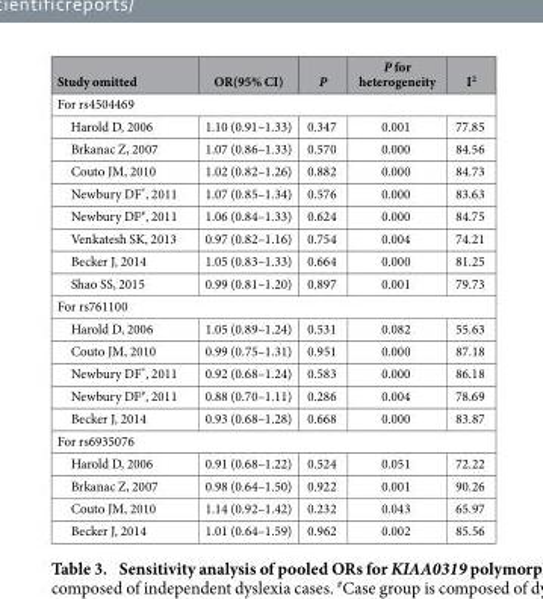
<table><thead><tr><td>Study omitted</td><td>OR(95% CI)</td><td>P</td><td>P for heterogeneity</td><td>I<sup>2</sup></td></tr></thead><tbody><tr><td colspan="5">For rs4504469</td></tr><tr><td>Harold D, 2006</td><td>1.10 (0.91–1.33)</td><td>0.347</td><td>0.001</td><td>77.85</td></tr><tr><td>Brkanac Z, 2007</td><td>1.07 (0.86–1.33)</td><td>0.570</td><td>0.000</td><td>84.56</td></tr><tr><td>Couto JM, 2010</td><td>1.02 (0.82–1.26)</td><td>0.882</td><td>0.000</td><td>84.73</td></tr><tr><td>Newbury DF*, 2011</td><td>1.07 (0.85–1.34)</td><td>0.576</td><td>0.000</td><td>83.63</td></tr><tr><td>Newbury DF<sup>#</sup>, 2011</td><td>1.06 (0.84–1.33)</td><td>0.624</td><td>0.000</td><td>84.75</td></tr><tr><td>Venkatesh SK, 2013</td><td>0.97 (0.82–1.16)</td><td>0.754</td><td>0.004</td><td>74.21</td></tr><tr><td>Becker J, 2014</td><td>1.05 (0.83–1.33)</td><td>0.664</td><td>0.000</td><td>81.25</td></tr><tr><td>Shao SS, 2015</td><td>0.99 (0.81–1.20)</td><td>0.897</td><td>0.001</td><td>79.73</td></tr><tr><td colspan="5">For rs761100</td></tr><tr><td>Harold D, 2006</td><td>1.05 (0.89–1.24)</td><td>0.531</td><td>0.082</td><td>55.63</td></tr><tr><td>Couto JM, 2010</td><td>0.99 (0.75–1.31)</td><td>0.951</td><td>0.000</td><td>87.18</td></tr><tr><td>Newbury DF*, 2011</td><td>0.92 (0.68–1.24)</td><td>0.583</td><td>0.000</td><td>86.18</td></tr><tr><td>Newbury DF<sup>#</sup>, 2011</td><td>0.88 (0.70–1.11)</td><td>0.286</td><td>0.004</td><td>78.69</td></tr><tr><td>Becker J, 2014</td><td>0.93 (0.68–1.28)</td><td>0.668</td><td>0.000</td><td>83.87</td></tr><tr><td colspan="5">For rs6935076</td></tr><tr><td>Harold D, 2006</td><td>0.91 (0.68–1.22)</td><td>0.524</td><td>0.051</td><td>72.22</td></tr><tr><td>Brkanac Z, 2007</td><td>0.98 (0.64–1.50)</td><td>0.922</td><td>0.001</td><td>90.26</td></tr><tr><td>Couto JM, 2010</td><td>1.14 (0.92–1.42)</td><td>0.232</td><td>0.043</td><td>65.97</td></tr><tr><td>Becker J, 2014</td><td>1.01 (0.64–1.59)</td><td>0.962</td><td>0.002</td><td>85.56</td></tr></tbody></table>